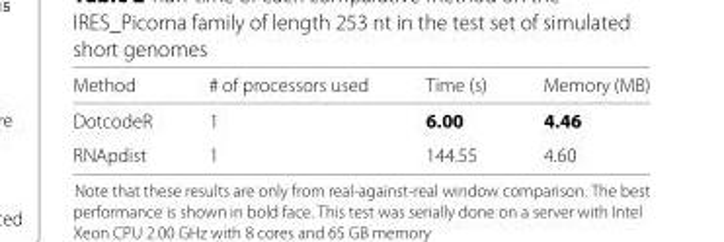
<table><thead><tr><td>Method</td><td># of processors used</td><td>Time (s)</td><td>Memory (MB)</td></tr></thead><tbody><tr><td>DotcodeR</td><td>1</td><td>6.00</td><td>4.46</td></tr><tr><td>RNApdist</td><td>1</td><td>144.55</td><td>4.60</td></tr></tbody></table>